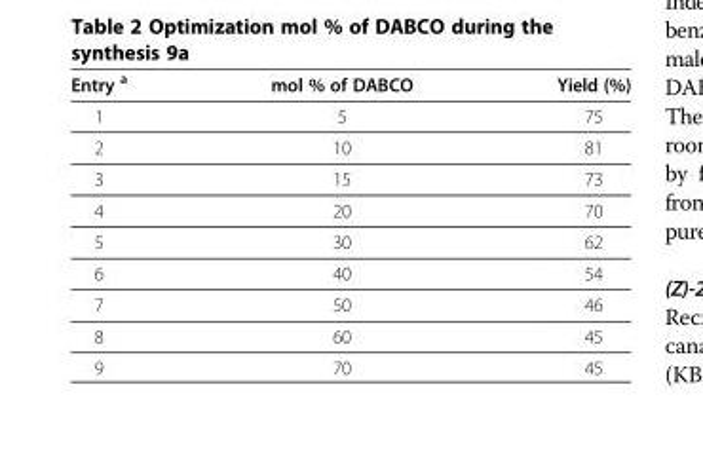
<table><thead><tr><td>Entry <sup>a</sup></td><td>mol % of DABCO</td><td>Yield (%)</td></tr></thead><tbody><tr><td>1</td><td>5</td><td>75</td></tr><tr><td>2</td><td>10</td><td>81</td></tr><tr><td>3</td><td>15</td><td>73</td></tr><tr><td>4</td><td>20</td><td>70</td></tr><tr><td>5</td><td>30</td><td>62</td></tr><tr><td>6</td><td>40</td><td>54</td></tr><tr><td>7</td><td>50</td><td>46</td></tr><tr><td>8</td><td>60</td><td>45</td></tr><tr><td>9</td><td>70</td><td>45</td></tr></tbody></table>